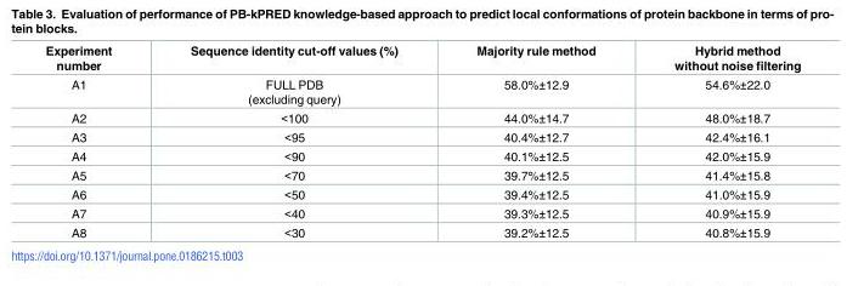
<table><thead><tr><td>Experiment number</td><td>Sequence identity cut-off values (%)</td><td>Majority rule method</td><td>Hybrid method without noise filtering</td></tr></thead><tbody><tr><td>A1</td><td>FULL PDB (excluding query)</td><td>58.0%±12.9</td><td>54.6%±22.0</td></tr><tr><td>A2</td><td>&lt;100</td><td>44.0%±14.7</td><td>48.0%±18.7</td></tr><tr><td>A3</td><td>&lt;95</td><td>40.4%±12.7</td><td>42.4%±16.1</td></tr><tr><td>A4</td><td>&lt;90</td><td>40.1%±12.5</td><td>42.0%±15.9</td></tr><tr><td>A5</td><td>&lt;70</td><td>39.7%±12.5</td><td>41.4%±15.8</td></tr><tr><td>A6</td><td>&lt;50</td><td>39.4%±12.5</td><td>41.0%±15.9</td></tr><tr><td>A7</td><td>&lt;40</td><td>39.3%±12.5</td><td>40.9%±15.9</td></tr><tr><td>A8</td><td>&lt;30</td><td>39.2%±12.5</td><td>40.8%±15.9</td></tr></tbody></table>